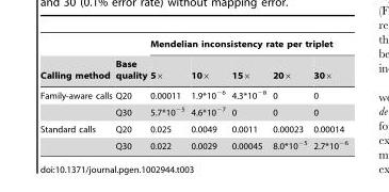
<table><thead><tr><td rowspan="2">Calling method</td><td rowspan="2">Base quality</td><td colspan="5">Mendelian inconsistency rate per triplet</td></tr><tr><td>5×</td><td>10×</td><td>15×</td><td>20×</td><td>30×</td></tr></thead><tbody><tr><td rowspan="2">Family-aware calls</td><td>Q20</td><td>0.00011</td><td>1.9*10<sup>−6</sup></td><td>4.3*10<sup>−8</sup></td><td>0</td><td>0</td></tr><tr><td>Q30</td><td>5.7*10<sup>−5</sup></td><td>4.6*10<sup>−7</sup></td><td>0</td><td>0</td><td>0</td></tr><tr><td rowspan="2">Standard calls</td><td>Q20</td><td>0.025</td><td>0.0049</td><td>0.0011</td><td>0.00023</td><td>0.00014</td></tr><tr><td>Q30</td><td>0.022</td><td>0.0029</td><td>0.00045</td><td>8.0*10<sup>−5</sup></td><td>2.7*10<sup>−6</sup></td></tr></tbody></table>